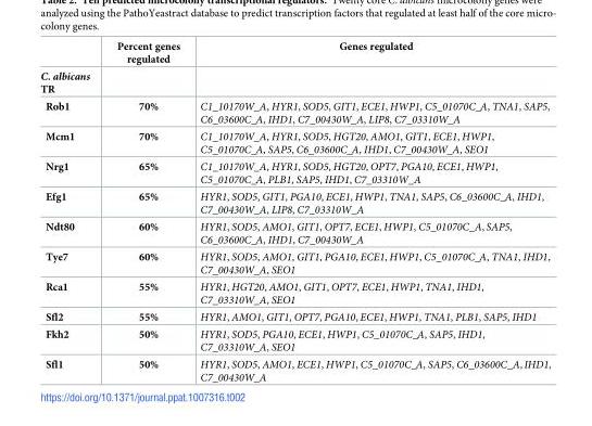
<table><thead><tr><td></td><td>Percent genes regulated</td><td>Genes regulated</td></tr></thead><tbody><tr><td colspan="3">C. albicans TR</td></tr><tr><td>Rob1</td><td>70%</td><td>C1_10170W_A, HYR1, SOD5, GIT1, ECE1, HWP1, C5_01070C_A, TNA1, SAP5, C6_03600C_A, IHD1, C7_00430W_A, LIP8, C7_03310W_A</td></tr><tr><td>Mcm1</td><td>70%</td><td>C1_10170W_A, HYR1, SOD5, HGT20, AMO1, GIT1, ECE1, HWP1, C5_01070C_A, SAP5, C6_03600C_A, IHD1, C7_00430W_A, SEO1</td></tr><tr><td>Nrg1</td><td>65%</td><td>C1_10170W_A, HYR1, SOD5, HGT20, OPT7, PGA10, ECE1, HWP1, C5_01070C_A, PLB1, SAP5, IHD1, C7_03310W_A</td></tr><tr><td>Efg1</td><td>65%</td><td>HYR1, SOD5, GIT1, PGA10, ECE1, HWP1, TNA1, SAP5, C6_03600C_A, IHD1, C7_00430W_A, LIP8, C7_03310W_A</td></tr><tr><td>Ndt80</td><td>60%</td><td>HYR1, SOD5, AMO1, GIT1, OPT7, ECE1, HWP1, C5_01070C_A,SAP5, C6_03600C_A, IHD1, C7_00430W_A</td></tr><tr><td>Tye7</td><td>60%</td><td>HYR1, SOD5, AMO1, GIT1, PGA10, ECE1, HWP1, C5_01070C_A, TNA1, IHD1, C7_00430W_A, SEO1</td></tr><tr><td>Rca1</td><td>55%</td><td>HYR1, HGT20, AMO1, GIT1, OPT7, ECE1, HWP1, TNA1, IHD1, C7_03310W_A, SEO1</td></tr><tr><td>Sfl2</td><td>55%</td><td>HYR1, AMO1, GIT1, OPT7, PGA10, ECE1, HWP1, TNA1, PLB1, SAP5, IHD1</td></tr><tr><td>Fkh2</td><td>50%</td><td>HYR1, SOD5, PGA10, ECE1, HWP1, C5_01070C_A, SAP5, IHD1, C7_03310W_A, SEO1</td></tr><tr><td>Sfl1</td><td>50%</td><td>HYR1, SOD5, AMO1, ECE1, HWP1, C5_01070C_A, SAP5, C6_03600C_A,IHD1, C7_00430W_A</td></tr></tbody></table>